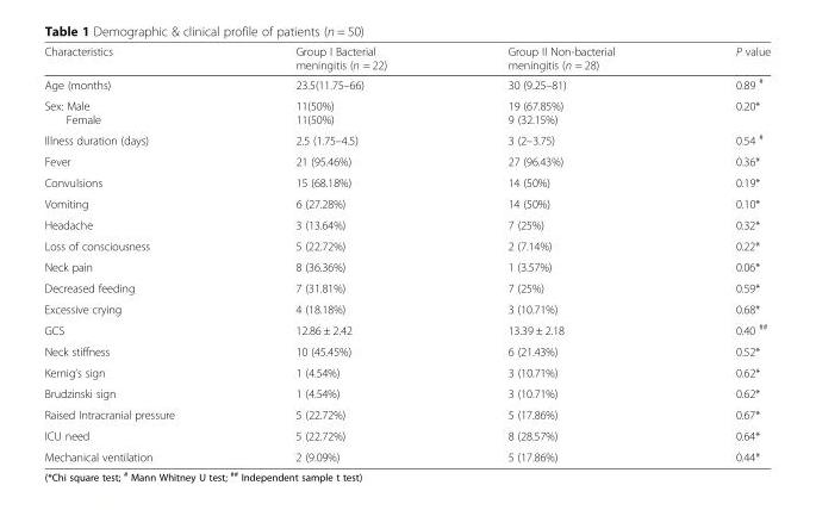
<table><thead><tr><td>Characteristics</td><td>Group I Bacterial meningitis (n = 22)</td><td>Group II Non-bacterial meningitis (n = 28)</td><td>P value</td></tr></thead><tbody><tr><td>Age (months)</td><td>23.5(11.75–66)</td><td>30 (9.25–81)</td><td>0.89 <sup>#</sup></td></tr><tr><td>Sex: Male Female</td><td>11(50%) 11(50%)</td><td>19 (67.85%) 9 (32.15%)</td><td>0.20*</td></tr><tr><td>Illness duration (days)</td><td>2.5 (1.75–4.5)</td><td>3 (2–3.75)</td><td>0.54 <sup>#</sup></td></tr><tr><td>Fever</td><td>21 (95.46%)</td><td>27 (96.43%)</td><td>0.36*</td></tr><tr><td>Convulsions</td><td>15 (68.18%)</td><td>14 (50%)</td><td>0.19*</td></tr><tr><td>Vomiting</td><td>6 (27.28%)</td><td>14 (50%)</td><td>0.10*</td></tr><tr><td>Headache</td><td>3 (13.64%)</td><td>7 (25%)</td><td>0.32*</td></tr><tr><td>Loss of consciousness</td><td>5 (22.72%)</td><td>2 (7.14%)</td><td>0.22*</td></tr><tr><td>Neck pain</td><td>8 (36.36%)</td><td>1 (3.57%)</td><td>0.06*</td></tr><tr><td>Decreased feeding</td><td>7 (31.81%)</td><td>7 (25%)</td><td>0.59*</td></tr><tr><td>Excessive crying</td><td>4 (18.18%)</td><td>3 (10.71%)</td><td>0.68*</td></tr><tr><td>GCS</td><td>12.86 ± 2.42</td><td>13.39 ± 2.18</td><td>0.40 <sup>##</sup></td></tr><tr><td>Neck stiffness</td><td>10 (45.45%)</td><td>6 (21.43%)</td><td>0.52*</td></tr><tr><td>Kernig’s sign</td><td>1 (4.54%)</td><td>3 (10.71%)</td><td>0.62*</td></tr><tr><td>Brudzinski sign</td><td>1 (4.54%)</td><td>3 (10.71%)</td><td>0.62*</td></tr><tr><td>Raised Intracranial pressure</td><td>5 (22.72%)</td><td>5 (17.86%)</td><td>0.67*</td></tr><tr><td>ICU need</td><td>5 (22.72%)</td><td>8 (28.57%)</td><td>0.64*</td></tr><tr><td>Mechanical ventilation</td><td>2 (9.09%)</td><td>5 (17.86%)</td><td>0.44*</td></tr></tbody></table>